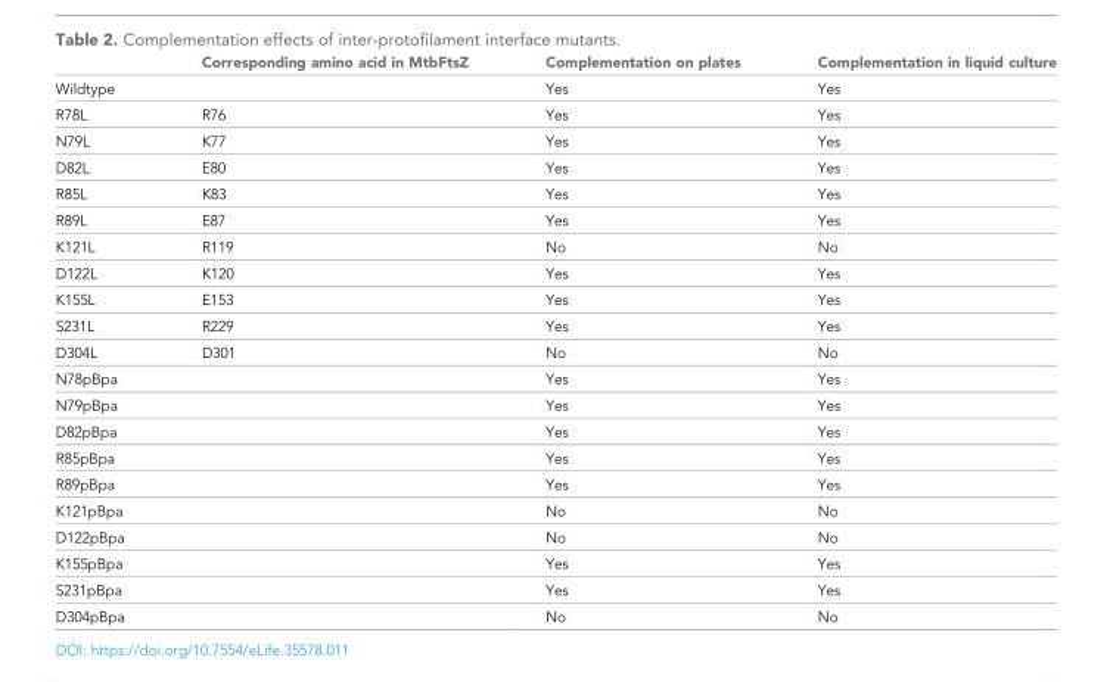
<table><thead><tr><td></td><td>Corresponding amino acid in MtbFtsZ</td><td>Complementation on plates</td><td>Complementation in liquid culture</td></tr></thead><tbody><tr><td>Wildtype</td><td></td><td>Yes</td><td>Yes</td></tr><tr><td>R78L</td><td>R76</td><td>Yes</td><td>Yes</td></tr><tr><td>N79L</td><td>K77</td><td>Yes</td><td>Yes</td></tr><tr><td>D82L</td><td>E80</td><td>Yes</td><td>Yes</td></tr><tr><td>R85L</td><td>K83</td><td>Yes</td><td>Yes</td></tr><tr><td>R89L</td><td>E87</td><td>Yes</td><td>Yes</td></tr><tr><td>K121L</td><td>R119</td><td>No</td><td>No</td></tr><tr><td>D122L</td><td>K120</td><td>Yes</td><td>Yes</td></tr><tr><td>K155L</td><td>E153</td><td>Yes</td><td>Yes</td></tr><tr><td>S231L</td><td>R229</td><td>Yes</td><td>Yes</td></tr><tr><td>D304L</td><td>D301</td><td>No</td><td>No</td></tr><tr><td>N78pBpa</td><td></td><td>Yes</td><td>Yes</td></tr><tr><td>N79pBpa</td><td></td><td>Yes</td><td>Yes</td></tr><tr><td>D82pBpa</td><td></td><td>Yes</td><td>Yes</td></tr><tr><td>R85pBpa</td><td></td><td>Yes</td><td>Yes</td></tr><tr><td>R89pBpa</td><td></td><td>Yes</td><td>Yes</td></tr><tr><td>K121pBpa</td><td></td><td>No</td><td>No</td></tr><tr><td>D122pBpa</td><td></td><td>No</td><td>No</td></tr><tr><td>K155pBpa</td><td></td><td>Yes</td><td>Yes</td></tr><tr><td>S231pBpa</td><td></td><td>Yes</td><td>Yes</td></tr><tr><td>D304pBpa</td><td></td><td>No</td><td>No</td></tr></tbody></table>